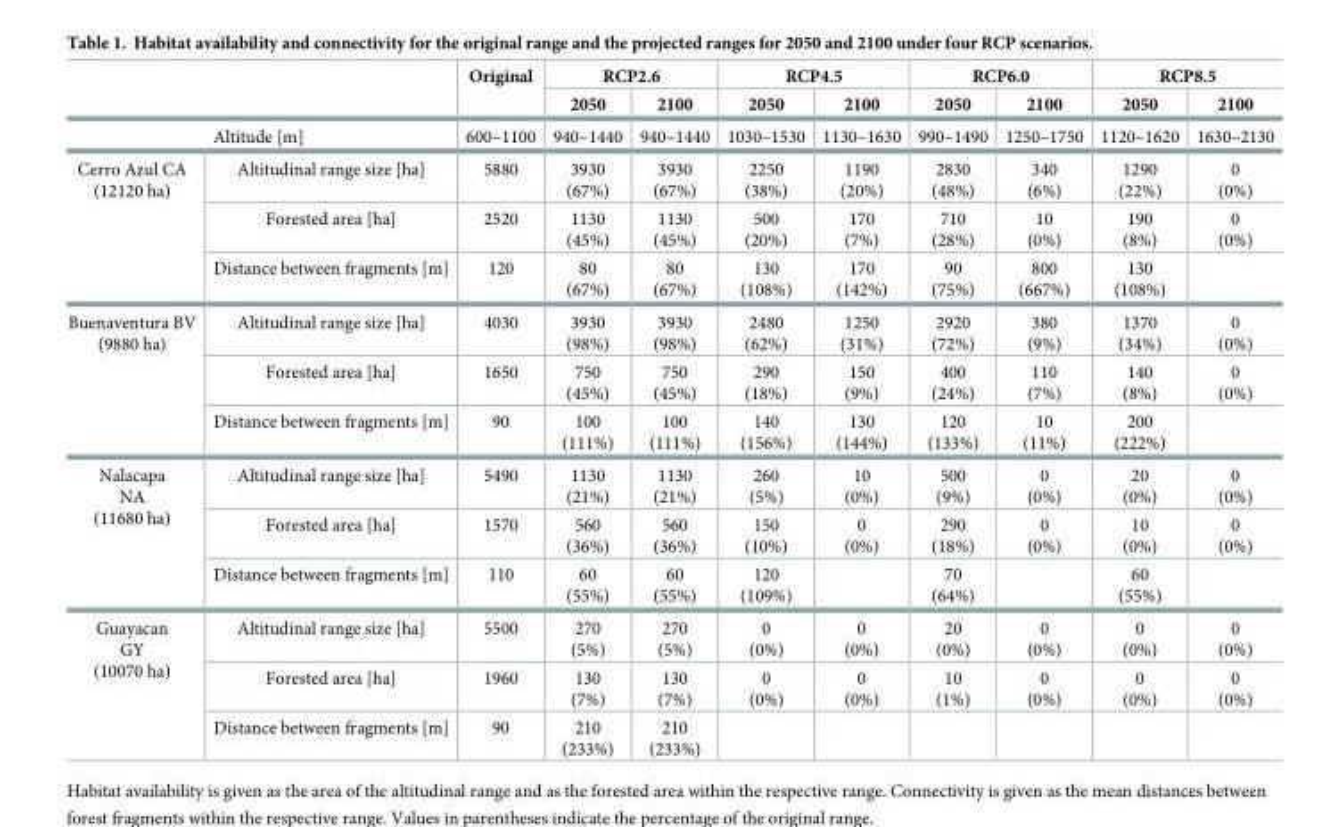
<table><thead><tr><td rowspan="2"></td><td rowspan="2"></td><td rowspan="2">Original</td><td colspan="2">RCP2.6</td><td colspan="2">RCP4.5</td><td colspan="2">RCP6.0</td><td colspan="2">RCP8.5</td></tr><tr><td>2050</td><td>2100</td><td>2050</td><td>2100</td><td>2050</td><td>2100</td><td>2050</td><td>2100</td></tr></thead><tbody><tr><td colspan="2">Altitude [m]</td><td>600–1100</td><td>940–1440</td><td>940–1440</td><td>1030–1530</td><td>1130–1630</td><td>990–1490</td><td>1250–1750</td><td>1120–1620</td><td>1630–2130</td></tr><tr><td rowspan="3">Cerro Azul CA (12120 ha)</td><td>Altitudinal range size [ha]</td><td>5880</td><td>3930 (67%)</td><td>3930 (67%)</td><td>2250 (38%)</td><td>1190 (20%)</td><td>2830 (48%)</td><td>340 (6%)</td><td>1290 (22%)</td><td>0 (0%)</td></tr><tr><td>Forested area [ha]</td><td>2520</td><td>1130 (45%)</td><td>1130 (45%)</td><td>500 (20%)</td><td>170 (7%)</td><td>710 (28%)</td><td>10 (0%)</td><td>190 (8%)</td><td>0 (0%)</td></tr><tr><td>Distance between fragments [m]</td><td>120</td><td>80 (67%)</td><td>80 (67%)</td><td>130 (108%)</td><td>170 (142%)</td><td>90 (75%)</td><td>800 (667%)</td><td>130 (108%)</td><td></td></tr><tr><td rowspan="3">Buenaventura BV (9880 ha)</td><td>Altitudinal range size [ha]</td><td>4030</td><td>3930 (98%)</td><td>3930 (98%)</td><td>2480 (62%)</td><td>1250 (31%)</td><td>2920 (72%)</td><td>380 (9%)</td><td>1370 (34%)</td><td>0 (0%)</td></tr><tr><td>Forested area [ha]</td><td>1650</td><td>750 (45%)</td><td>750 (45%)</td><td>290 (18%)</td><td>150 (9%)</td><td>400 (24%)</td><td>110 (7%)</td><td>140 (8%)</td><td>0 (0%)</td></tr><tr><td>Distance between fragments [m]</td><td>90</td><td>100 (111%)</td><td>100 (111%)</td><td>140 (156%)</td><td>130 (144%)</td><td>120 (133%)</td><td>10 (11%)</td><td>200 (222%)</td><td></td></tr><tr><td rowspan="3">Nalacapa NA (11680 ha)</td><td>Altitudinal range size [ha]</td><td>5490</td><td>1130 (21%)</td><td>1130 (21%)</td><td>260 (5%)</td><td>10 (0%)</td><td>500 (9%)</td><td>0 (0%)</td><td>20 (0%)</td><td>0 (0%)</td></tr><tr><td>Forested area [ha]</td><td>1570</td><td>560 (36%)</td><td>560 (36%)</td><td>150 (10%)</td><td>0 (0%)</td><td>290 (18%)</td><td>0 (0%)</td><td>10 (0%)</td><td>0 (0%)</td></tr><tr><td>Distance between fragments [m]</td><td>110</td><td>60 (55%)</td><td>60 (55%)</td><td>120 (109%)</td><td></td><td>70 (64%)</td><td></td><td>60 (55%)</td><td></td></tr><tr><td rowspan="3">Guayacan GY (10070 ha)</td><td>Altitudinal range size [ha]</td><td>5500</td><td>270 (5%)</td><td>270 (5%)</td><td>0 (0%)</td><td>0 (0%)</td><td>20 (0%)</td><td>0 (0%)</td><td>0 (0%)</td><td>0 (0%)</td></tr><tr><td>Forested area [ha]</td><td>1960</td><td>130 (7%)</td><td>130 (7%)</td><td>0 (0%)</td><td>0 (0%)</td><td>10 (1%)</td><td>0 (0%)</td><td>0 (0%)</td><td>0 (0%)</td></tr><tr><td>Distance between fragments [m]</td><td>90</td><td>210 (233%)</td><td>210 (233%)</td><td></td><td></td><td></td><td></td><td></td><td></td></tr></tbody></table>